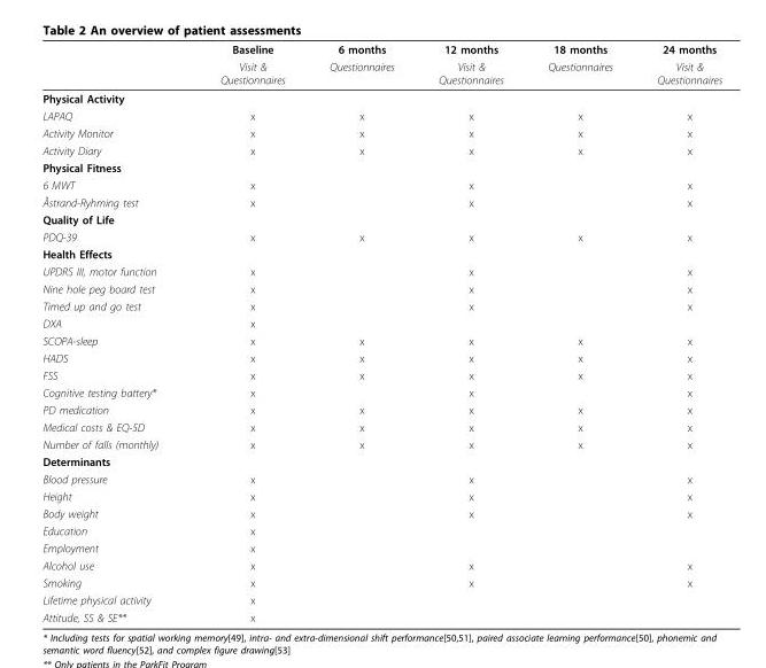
<table><thead><tr><td rowspan="2"></td><td rowspan="2">Baseline Visit &amp; Questionnaires</td><td rowspan="2">6 months Questionnaires</td><td rowspan="2">12 months Visit &amp; Questionnaires</td><td rowspan="2">18 months Questionnaires</td><td rowspan="2">24 months Visit &amp; Questionnaires</td></tr><tr></tr></thead><tbody><tr><td colspan="6">Physical Activity</td></tr><tr><td>LAPAQ</td><td>x</td><td>x</td><td>x</td><td>x</td><td>x</td></tr><tr><td>Activity Monitor</td><td>x</td><td>x</td><td>x</td><td>x</td><td>x</td></tr><tr><td>Activity Diary</td><td>x</td><td>x</td><td>x</td><td>x</td><td>x</td></tr><tr><td colspan="6">Physical Fitness</td></tr><tr><td>6 MWT</td><td>x</td><td></td><td>x</td><td></td><td>x</td></tr><tr><td>Åstrand-Ryhming test</td><td>x</td><td></td><td>x</td><td></td><td>x</td></tr><tr><td colspan="6">Quality of Life</td></tr><tr><td>PDQ-39</td><td>x</td><td>x</td><td>x</td><td>x</td><td>x</td></tr><tr><td colspan="6">Health Effects</td></tr><tr><td>UPDRS III, motor function</td><td>x</td><td></td><td>x</td><td></td><td>x</td></tr><tr><td>Nine hole peg board test</td><td>x</td><td></td><td>x</td><td></td><td>x</td></tr><tr><td>Timed up and go test</td><td>x</td><td></td><td>x</td><td></td><td>x</td></tr><tr><td>DXA</td><td>x</td><td></td><td></td><td></td><td></td></tr><tr><td>SCOPA-sleep</td><td>x</td><td>x</td><td>x</td><td>x</td><td>x</td></tr><tr><td>HADS</td><td>x</td><td>x</td><td>x</td><td>x</td><td>x</td></tr><tr><td>FSS</td><td>x</td><td>x</td><td>x</td><td>x</td><td>x</td></tr><tr><td>Cognitive testing battery*</td><td>x</td><td></td><td>x</td><td></td><td>x</td></tr><tr><td>PD medication</td><td>x</td><td>x</td><td>x</td><td>x</td><td>x</td></tr><tr><td>Medical costs &amp; EQ-5D</td><td>x</td><td>x</td><td>x</td><td>x</td><td>x</td></tr><tr><td>Number of falls (monthly)</td><td>x</td><td>x</td><td>x</td><td>x</td><td>x</td></tr><tr><td colspan="6">Determinants</td></tr><tr><td>Blood pressure</td><td>x</td><td></td><td>x</td><td></td><td>x</td></tr><tr><td>Height</td><td>x</td><td></td><td>x</td><td></td><td>x</td></tr><tr><td>Body weight</td><td>x</td><td></td><td>x</td><td></td><td>x</td></tr><tr><td>Education</td><td>x</td><td></td><td></td><td></td><td></td></tr><tr><td>Employment</td><td>x</td><td></td><td></td><td></td><td></td></tr><tr><td>Alcohol use</td><td>x</td><td></td><td>x</td><td></td><td>x</td></tr><tr><td>Smoking</td><td>x</td><td></td><td>x</td><td></td><td>x</td></tr><tr><td>Lifetime physical activity</td><td>x</td><td></td><td></td><td></td><td></td></tr><tr><td>Attitude, SS &amp; SE**</td><td>x</td><td></td><td></td><td></td><td></td></tr></tbody></table>